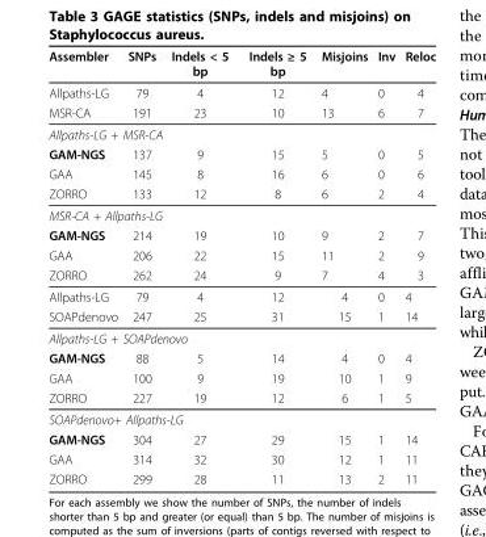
<table><thead><tr><td>Assembler</td><td>SNPs</td><td>Indels &lt; 5 bp</td><td>Indels ≥ 5 bp</td><td>Misjoins</td><td>Inv</td><td>Reloc</td></tr></thead><tbody><tr><td>Allpaths-LG</td><td>79</td><td>4</td><td>12</td><td>4</td><td>0</td><td>4</td></tr><tr><td>MSR-CA</td><td>191</td><td>23</td><td>10</td><td>13</td><td>6</td><td>7</td></tr><tr><td colspan="7">Allpaths-LG + MSR-CA</td></tr><tr><td>GAM-NGS</td><td>137</td><td>9</td><td>15</td><td>5</td><td>0</td><td>5</td></tr><tr><td>GAA</td><td>145</td><td>8</td><td>16</td><td>6</td><td>0</td><td>6</td></tr><tr><td>ZORRO</td><td>133</td><td>12</td><td>8</td><td>6</td><td>2</td><td>4</td></tr><tr><td colspan="7">MSR-CA + Allpaths-LG</td></tr><tr><td>GAM-NGS</td><td>214</td><td>19</td><td>10</td><td>9</td><td>2</td><td>7</td></tr><tr><td>GAA</td><td>206</td><td>22</td><td>15</td><td>11</td><td>2</td><td>9</td></tr><tr><td>ZORRO</td><td>262</td><td>24</td><td>9</td><td>7</td><td>4</td><td>3</td></tr><tr><td>Allpaths-LG</td><td>79</td><td>4</td><td>12</td><td>4</td><td>0</td><td>4</td></tr><tr><td>SOAPdenovo</td><td>247</td><td>25</td><td>31</td><td>15</td><td>1</td><td>14</td></tr><tr><td colspan="7">Allpaths-LG + SOAPdenovo</td></tr><tr><td>GAM-NGS</td><td>88</td><td>5</td><td>14</td><td>4</td><td>0</td><td>4</td></tr><tr><td>GAA</td><td>100</td><td>9</td><td>19</td><td>10</td><td>1</td><td>9</td></tr><tr><td>ZORRO</td><td>227</td><td>19</td><td>12</td><td>6</td><td>1</td><td>5</td></tr><tr><td colspan="7">SOAPdenovo+ Allpaths-LG</td></tr><tr><td>GAM-NGS</td><td>304</td><td>27</td><td>29</td><td>15</td><td>1</td><td>14</td></tr><tr><td>GAA</td><td>314</td><td>32</td><td>30</td><td>12</td><td>1</td><td>11</td></tr><tr><td>ZORRO</td><td>299</td><td>28</td><td>11</td><td>13</td><td>2</td><td>11</td></tr></tbody></table>